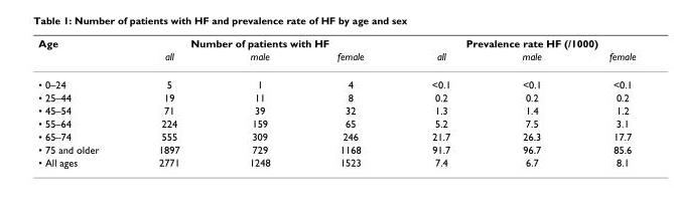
<table><thead><tr><td rowspan="2">Age</td><td colspan="3">Number of patients with HF</td><td colspan="3">Prevalence rate HF (/1000)</td></tr><tr><td>all</td><td>male</td><td>female</td><td>all</td><td>male</td><td>female</td></tr></thead><tbody><tr><td>• 0–24</td><td>5</td><td>1</td><td>4</td><td>&lt;0.1</td><td>&lt;0.1</td><td>&lt;0.1</td></tr><tr><td>• 25–44</td><td>19</td><td>11</td><td>8</td><td>0.2</td><td>0.2</td><td>0.2</td></tr><tr><td>• 45–54</td><td>71</td><td>39</td><td>32</td><td>1.3</td><td>1.4</td><td>1.2</td></tr><tr><td>• 55–64</td><td>224</td><td>159</td><td>65</td><td>5.2</td><td>7.5</td><td>3.1</td></tr><tr><td>• 65–74</td><td>555</td><td>309</td><td>246</td><td>21.7</td><td>26.3</td><td>17.7</td></tr><tr><td>• 75 and older</td><td>1897</td><td>729</td><td>1168</td><td>91.7</td><td>96.7</td><td>85.6</td></tr><tr><td>• All ages</td><td>2771</td><td>1248</td><td>1523</td><td>7.4</td><td>6.7</td><td>8.1</td></tr></tbody></table>